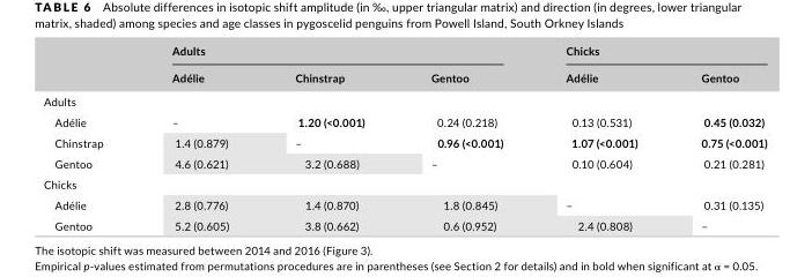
<table><thead><tr><td rowspan="2"></td><td colspan="3">Adults</td><td colspan="2">Chicks</td></tr><tr><td>Adélie</td><td>Chinstrap</td><td>Gentoo</td><td>Adélie</td><td>Gentoo</td></tr></thead><tbody><tr><td colspan="6">Adults</td></tr><tr><td>Adélie</td><td>–</td><td>1.20 (&lt;0.001)</td><td>0.24 (0.218)</td><td>0.13 (0.531)</td><td>0.45 (0.032)</td></tr><tr><td>Chinstrap</td><td>1.4 (0.879)</td><td>–</td><td>0.96 (&lt;0.001)</td><td>1.07 (&lt;0.001)</td><td>0.75 (&lt;0.001)</td></tr><tr><td>Gentoo</td><td>4.6 (0.621)</td><td>3.2 (0.688)</td><td>–</td><td>0.10 (0.604)</td><td>0.21 (0.281)</td></tr><tr><td colspan="6">Chicks</td></tr><tr><td>Adélie</td><td>2.8 (0.776)</td><td>1.4 (0.870)</td><td>1.8 (0.845)</td><td>–</td><td>0.31 (0.135)</td></tr><tr><td>Gentoo</td><td>5.2 (0.605)</td><td>3.8 (0.662)</td><td>0.6 (0.952)</td><td>2.4 (0.808)</td><td>–</td></tr></tbody></table>